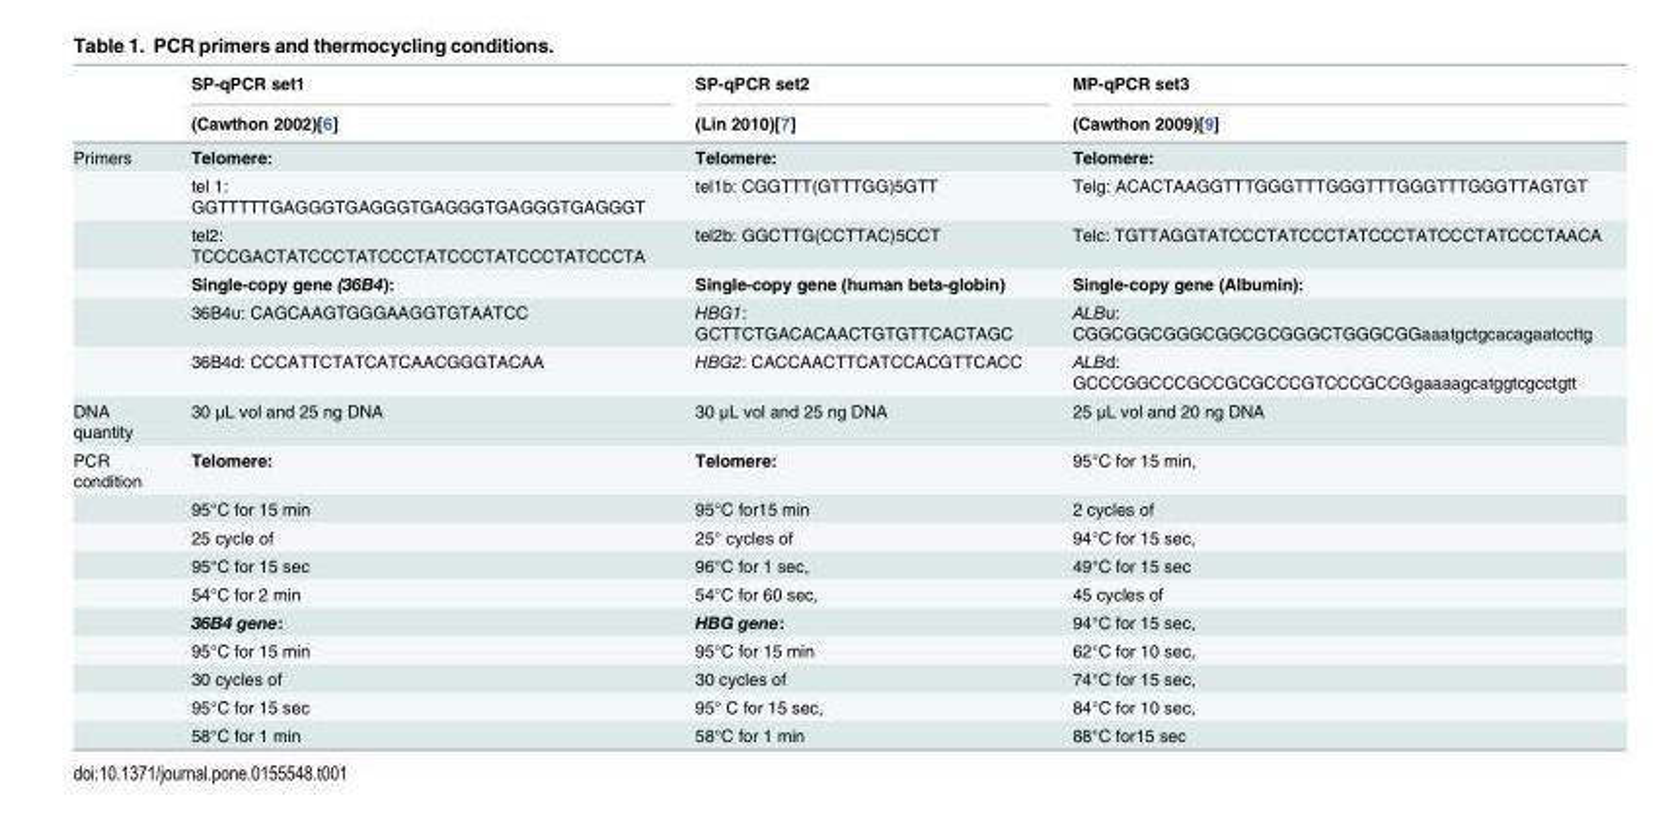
<table><thead><tr><td rowspan="2"></td><td rowspan="2">SP-qPCR set1 (Cawthon 2002)[6]</td><td rowspan="2">SP-qPCR set2 (Lin 2010)[7]</td><td rowspan="2">MP-qPCR set3 (Cawthon 2009)[9]</td></tr><tr></tr></thead><tbody><tr><td rowspan="6">Primers</td><td>Telomere:</td><td>Telomere:</td><td>Telomere:</td></tr><tr><td>tel 1: GGTTTTTGAGGGTGAGGGTGAGGGTGAGGGTGAGGGT</td><td>tel1b: CGGTTT(GTTTGG)5GTT</td><td>Telg: ACACTAAGGTTTGGGTTTGGGTTTGGGTTTGGGTTAGTGT</td></tr><tr><td>tel2: TCCCGACTATCCCTATCCCTATCCCTATCCCTATCCCTA</td><td>tel2b: GGCTTG(CCTTAC)5CCT</td><td>Telc: TGTTAGGTATCCCTATCCCTATCCCTATCCCTATCCCTAACA</td></tr><tr><td>Single-copy gene (36B4):</td><td>Single-copy gene (human beta-globin)</td><td>Single-copy gene (Albumin):</td></tr><tr><td>36B4u: CAGCAAGTGGGAAGGTGTAATCC</td><td>HBG1: GCTTCTGACACAACTGTGTTCACTAGC</td><td>ALBu: CGGCGGCGGGCGGCGCGGGCTGGGCGGaaatgctgcacagaatccttg</td></tr><tr><td>36B4d: CCCATTCTATCATCAACGGGTACAA</td><td>HBG2: CACCAACTTCATCCACGTTCACC</td><td>ALBd: GCCCGGCCCGCCGCGCCCGTCCCGCCGgaaaagcatggtcgcctgtt</td></tr><tr><td>DNA quantity</td><td>30 μL vol and 25 ng DNA</td><td>30 μL vol and 25 ng DNA</td><td>25 μL vol and 20 ng DNA</td></tr><tr><td rowspan="10">PCR condition</td><td>Telomere:</td><td>Telomere:</td><td>95°C for 15 min,</td></tr><tr><td>95°C for 15 min</td><td>95°C for15 min</td><td>2 cycles of</td></tr><tr><td>25 cycle of</td><td>25° cycles of</td><td>94°C for 15 sec,</td></tr><tr><td>95°C for 15 sec</td><td>96°C for 1 sec,</td><td>49°C for 15 sec</td></tr><tr><td>54°C for 2 min</td><td>54°C for 60 sec,</td><td>45 cycles of</td></tr><tr><td>36B4 gene:</td><td>HBG gene:</td><td>94°C for 15 sec,</td></tr><tr><td>95°C for 15 min</td><td>95°C for 15 min</td><td>62°C for 10 sec,</td></tr><tr><td>30 cycles of</td><td>30 cycles of</td><td>74°C for 15 sec,</td></tr><tr><td>95°C for 15 sec</td><td>95° C for 15 sec,</td><td>84°C for 10 sec,</td></tr><tr><td>58°C for 1 min</td><td>58°C for 1 min</td><td>88°C for15 sec</td></tr></tbody></table>